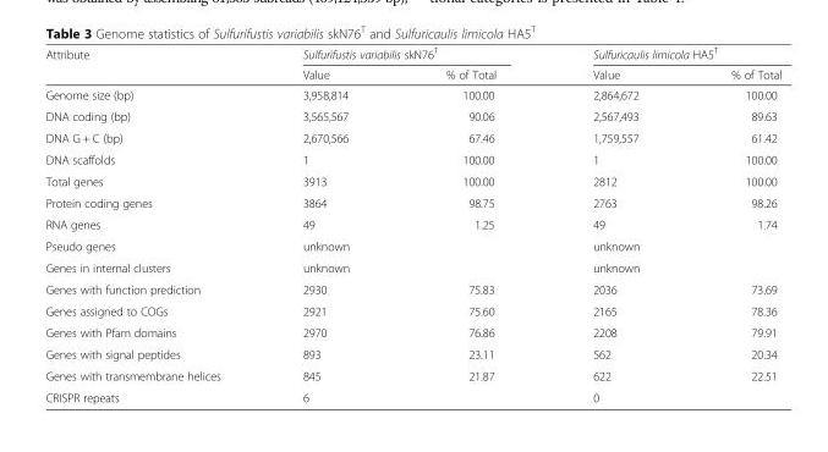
<table><thead><tr><td rowspan="2">Attribute</td><td colspan="2">Sulfurifustis variabilis skN76<sup>T</sup></td><td colspan="2">Sulfuricaulis limicola HA5<sup>T</sup></td></tr><tr><td>Value</td><td>% of Total</td><td>Value</td><td>% of Total</td></tr></thead><tbody><tr><td>Genome size (bp)</td><td>3,958,814</td><td>100.00</td><td>2,864,672</td><td>100.00</td></tr><tr><td>DNA coding (bp)</td><td>3,565,567</td><td>90.06</td><td>2,567,493</td><td>89.63</td></tr><tr><td>DNA G + C (bp)</td><td>2,670,566</td><td>67.46</td><td>1,759,557</td><td>61.42</td></tr><tr><td>DNA scaffolds</td><td>1</td><td>100.00</td><td>1</td><td>100.00</td></tr><tr><td>Total genes</td><td>3913</td><td>100.00</td><td>2812</td><td>100.00</td></tr><tr><td>Protein coding genes</td><td>3864</td><td>98.75</td><td>2763</td><td>98.26</td></tr><tr><td>RNA genes</td><td>49</td><td>1.25</td><td>49</td><td>1.74</td></tr><tr><td>Pseudo genes</td><td>unknown</td><td></td><td>unknown</td><td></td></tr><tr><td>Genes in internal clusters</td><td>unknown</td><td></td><td>unknown</td><td></td></tr><tr><td>Genes with function prediction</td><td>2930</td><td>75.83</td><td>2036</td><td>73.69</td></tr><tr><td>Genes assigned to COGs</td><td>2921</td><td>75.60</td><td>2165</td><td>78.36</td></tr><tr><td>Genes with Pfam domains</td><td>2970</td><td>76.86</td><td>2208</td><td>79.91</td></tr><tr><td>Genes with signal peptides</td><td>893</td><td>23.11</td><td>562</td><td>20.34</td></tr><tr><td>Genes with transmembrane helices</td><td>845</td><td>21.87</td><td>622</td><td>22.51</td></tr><tr><td>CRISPR repeats</td><td>6</td><td></td><td>0</td><td></td></tr></tbody></table>